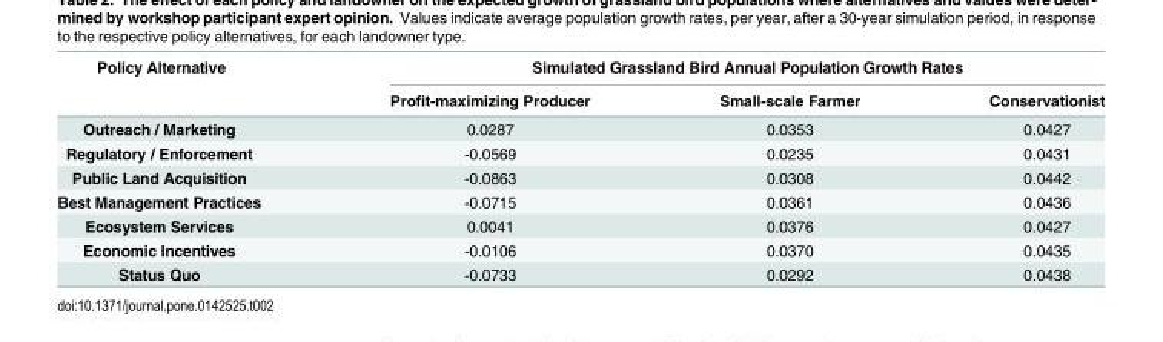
<table><thead><tr><td rowspan="2">Policy Alternative</td><td colspan="3">Simulated Grassland Bird Annual Population Growth Rates</td></tr><tr><td>Profit-maximizing Producer</td><td>Small-scale Farmer</td><td>Conservationist</td></tr></thead><tbody><tr><td>Outreach / Marketing</td><td>0.0287</td><td>0.0353</td><td>0.0427</td></tr><tr><td>Regulatory / Enforcement</td><td>-0.0569</td><td>0.0235</td><td>0.0431</td></tr><tr><td>Public Land Acquisition</td><td>-0.0863</td><td>0.0308</td><td>0.0442</td></tr><tr><td>Best Management Practices</td><td>-0.0715</td><td>0.0361</td><td>0.0436</td></tr><tr><td>Ecosystem Services</td><td>0.0041</td><td>0.0376</td><td>0.0427</td></tr><tr><td>Economic Incentives</td><td>-0.0106</td><td>0.0370</td><td>0.0435</td></tr><tr><td>Status Quo</td><td>-0.0733</td><td>0.0292</td><td>0.0438</td></tr></tbody></table>